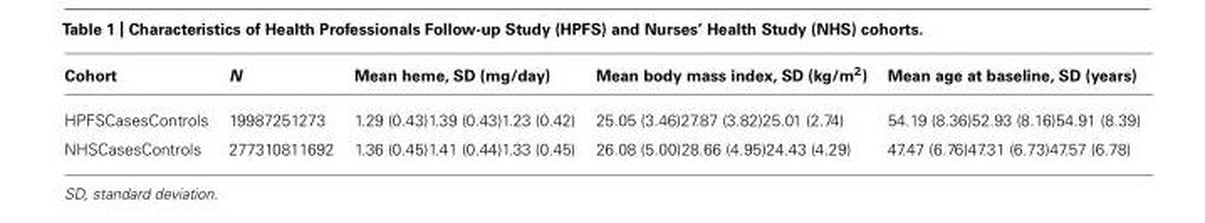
<table><thead><tr><td>Cohort</td><td>N</td><td>Mean heme, SD (mg/day)</td><td>Mean body mass index, SD (kg/m<sup>2</sup>)</td><td>Mean age at baseline, SD (years)</td></tr></thead><tbody><tr><td>HPFSCasesControls</td><td>19987251273</td><td>1.29 (0.43)1.39 (0.43)1.23 (0.42)</td><td>25.05 (3.46)27.87 (3.82)25.01 (2.74)</td><td>54.19 (8.36)52.93 (8.16)54.91 (8.39)</td></tr><tr><td>NHSCasesControls</td><td>277310811692</td><td>1.36 (0.45)1.41 (0.44)1.33 (0.45)</td><td>26.08 (5.00)28.66 (4.95)24.43 (4.29)</td><td>47.47 (6.76)47.31 (6.73)47.57 (6.78)</td></tr></tbody></table>